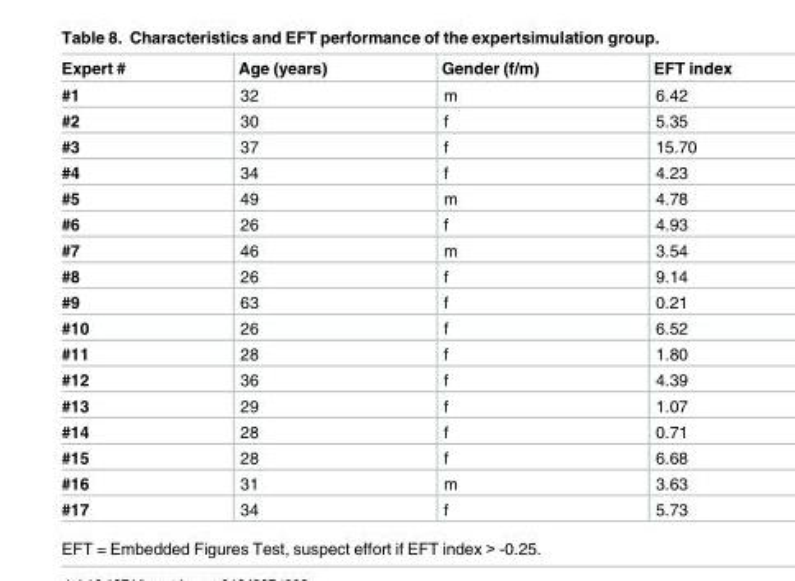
<table><thead><tr><td>Expert #</td><td>Age (years)</td><td>Gender (f/m)</td><td>EFT index</td></tr></thead><tbody><tr><td>#1</td><td>32</td><td>m</td><td>6.42</td></tr><tr><td>#2</td><td>30</td><td>f</td><td>5.35</td></tr><tr><td>#3</td><td>37</td><td>f</td><td>15.70</td></tr><tr><td>#4</td><td>34</td><td>f</td><td>4.23</td></tr><tr><td>#5</td><td>49</td><td>m</td><td>4.78</td></tr><tr><td>#6</td><td>26</td><td>f</td><td>4.93</td></tr><tr><td>#7</td><td>46</td><td>m</td><td>3.54</td></tr><tr><td>#8</td><td>26</td><td>f</td><td>9.14</td></tr><tr><td>#9</td><td>63</td><td>f</td><td>0.21</td></tr><tr><td>#10</td><td>26</td><td>f</td><td>6.52</td></tr><tr><td>#11</td><td>28</td><td>f</td><td>1.80</td></tr><tr><td>#12</td><td>36</td><td>f</td><td>4.39</td></tr><tr><td>#13</td><td>29</td><td>f</td><td>1.07</td></tr><tr><td>#14</td><td>28</td><td>f</td><td>0.71</td></tr><tr><td>#15</td><td>28</td><td>f</td><td>6.68</td></tr><tr><td>#16</td><td>31</td><td>m</td><td>3.63</td></tr><tr><td>#17</td><td>34</td><td>f</td><td>5.73</td></tr></tbody></table>